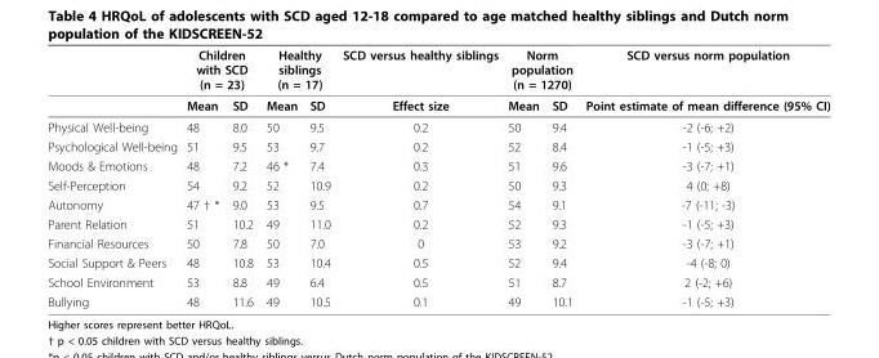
<table><thead><tr><td rowspan="2"></td><td colspan="2">Children with SCD (n = 23)</td><td colspan="2">Healthy siblings (n = 17)</td><td rowspan="2">SCD versus healthy siblings Effect size</td><td colspan="2">Norm population (n = 1270)</td><td rowspan="2">SCD versus norm population Point estimate of mean difference (95% CI)</td></tr><tr><td>Mean</td><td>SD</td><td>Mean</td><td>SD</td><td>Mean</td><td>SD</td></tr></thead><tbody><tr><td>Physical Well-being</td><td>48</td><td>8.0</td><td>50</td><td>9.5</td><td>0.2</td><td>50</td><td>9.4</td><td>-2 (-6; +2)</td></tr><tr><td>Psychological Well-being</td><td>51</td><td>9.5</td><td>53</td><td>9.7</td><td>0.2</td><td>52</td><td>8.4</td><td>-1 (-5; +3)</td></tr><tr><td>Moods &amp; Emotions</td><td>48</td><td>7.2</td><td>46 *</td><td>7.4</td><td>0.3</td><td>51</td><td>9.6</td><td>-3 (-7; +1)</td></tr><tr><td>Self-Perception</td><td>54</td><td>9.2</td><td>52</td><td>10.9</td><td>0.2</td><td>50</td><td>9.3</td><td>4 (0; +8)</td></tr><tr><td>Autonomy</td><td>47 † *</td><td>9.0</td><td>53</td><td>9.5</td><td>0.7</td><td>54</td><td>9.1</td><td>-7 (-11; -3)</td></tr><tr><td>Parent Relation</td><td>51</td><td>10.2</td><td>49</td><td>11.0</td><td>0.2</td><td>52</td><td>9.3</td><td>-1 (-5; +3)</td></tr><tr><td>Financial Resources</td><td>50</td><td>7.8</td><td>50</td><td>7.0</td><td>0</td><td>53</td><td>9.2</td><td>-3 (-7; +1)</td></tr><tr><td>Social Support &amp; Peers</td><td>48</td><td>10.8</td><td>53</td><td>10.4</td><td>0.5</td><td>52</td><td>9.4</td><td>-4 (-8; 0)</td></tr><tr><td>School Environment</td><td>53</td><td>8.8</td><td>49</td><td>6.4</td><td>0.5</td><td>51</td><td>8.7</td><td>2 (-2; +6)</td></tr><tr><td>Bullying</td><td>48</td><td>11.6</td><td>49</td><td>10.5</td><td>0.1</td><td>49</td><td>10.1</td><td>-1 (-5; +3)</td></tr></tbody></table>